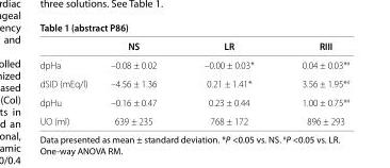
<table><thead><tr><td></td><td>NS</td><td>LR</td><td>RIII</td></tr></thead><tbody><tr><td>dpHa</td><td>–0.08 ± 0.02</td><td>–0.00 ± 0.03*</td><td>0.04 ± 0.03*<sup>#</sup></td></tr><tr><td>dSID (mEq/l)</td><td>–4.56 ± 1.36</td><td>0.21 ± 1.41*</td><td>3.56 ± 1.95*<sup>#</sup></td></tr><tr><td>dpHu</td><td>–0.16 ± 0.47</td><td>0.23 ± 0.44</td><td>1.00 ± 0.75*<sup>#</sup></td></tr><tr><td>UO (ml)</td><td>639 ± 235</td><td>768 ± 172</td><td>896 ± 293</td></tr></tbody></table>